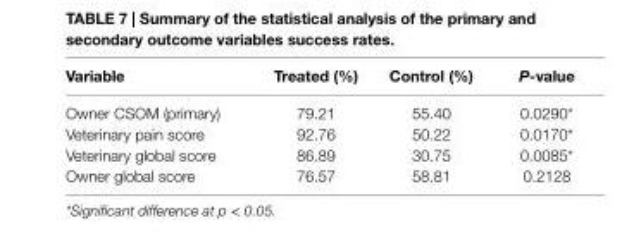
<table><thead><tr><td>Variable</td><td>Treated (%)</td><td>control (%)</td><td>P-value</td></tr></thead><tbody><tr><td>Owner CSOM (primary)</td><td>79.21</td><td>55.40</td><td>0.0290*</td></tr><tr><td>Veterinary pain score</td><td>92.76</td><td>50.22</td><td>0.0170*</td></tr><tr><td>Veterinary global score</td><td>86.89</td><td>30.75</td><td>0.0085*</td></tr><tr><td>Owner global score</td><td>76.57</td><td>58.81</td><td>0.2128</td></tr></tbody></table>